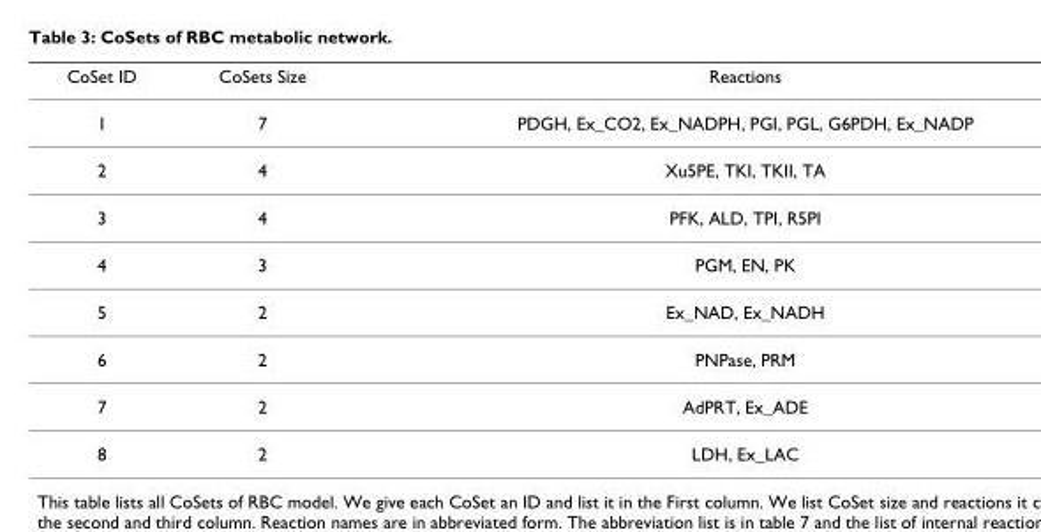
<table><thead><tr><td>CoSet ID</td><td>CoSets Size</td><td>Reactions</td></tr></thead><tbody><tr><td>1</td><td>7</td><td>PDGH, Ex_CO2, Ex_NADPH, PGI, PGL, G6PDH, Ex_NADP</td></tr><tr><td>2</td><td>4</td><td>Xu5PE, TKI, TKII, TA</td></tr><tr><td>3</td><td>4</td><td>PFK, ALD, TPI, R5PI</td></tr><tr><td>4</td><td>3</td><td>PGM, EN, PK</td></tr><tr><td>5</td><td>2</td><td>Ex_NAD, Ex_NADH</td></tr><tr><td>6</td><td>2</td><td>PNPase, PRM</td></tr><tr><td>7</td><td>2</td><td>AdPRT, Ex_ADE</td></tr><tr><td>8</td><td>2</td><td>LDH, Ex_LAC</td></tr></tbody></table>